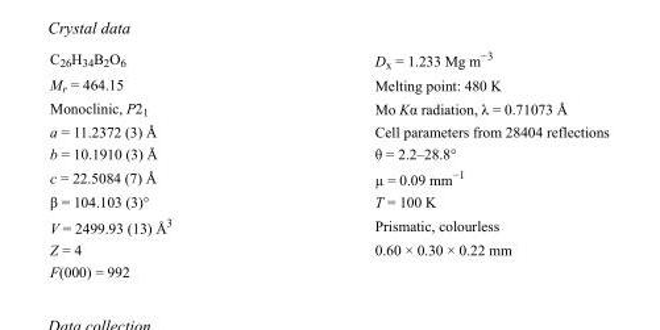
<table><tbody><tr><td>C<sub>26</sub>H<sub>34</sub>B<sub>2</sub>O<sub>6</sub></td><td>D<sub>x</sub> = 1.233 Mg m<sup>−3</sup></td></tr><tr><td>M<sub>r</sub> = 464.15</td><td>Melting point: 480 K</td></tr><tr><td>Monoclinic, P2<sub>1</sub></td><td>Mo Kα radiation, λ = 0.71073 Å</td></tr><tr><td>a = 11.2372 (3) Å</td><td>Cell parameters from 28404 reflections</td></tr><tr><td>b = 10.1910 (3) Å</td><td>θ = 2.2–28.8°</td></tr><tr><td>c = 22.5084 (7) Å</td><td>µ = 0.09 mm<sup>−1</sup></td></tr><tr><td>β = 104.103 (3)°</td><td>T = 100 K</td></tr><tr><td>V = 2499.93 (13) Å<sup>3</sup></td><td>Prismatic, colourless</td></tr><tr><td>Z = 4</td><td>0.60 × 0.30 × 0.22 mm</td></tr><tr><td>F(000) = 992</td><td></td></tr></tbody></table>